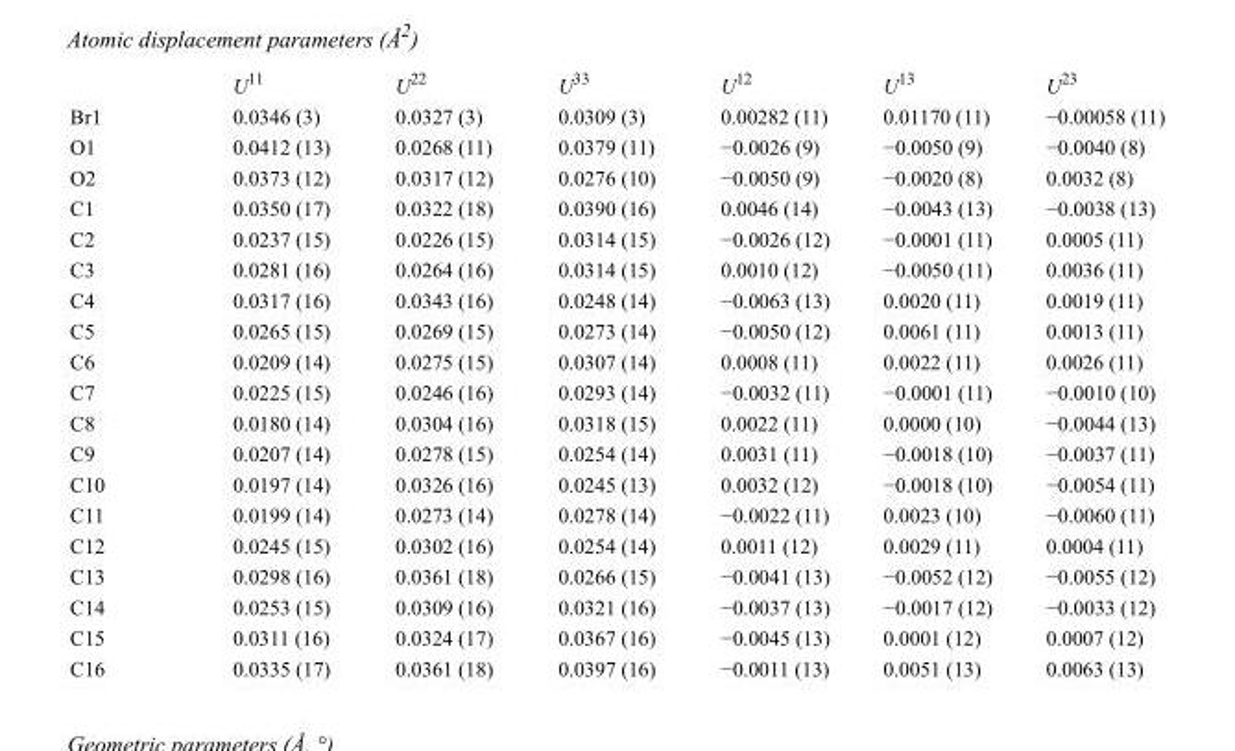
<table><thead><tr><td></td><td>U<sup>11</sup></td><td>U<sup>22</sup></td><td>U<sup>33</sup></td><td>U<sup>12</sup></td><td>U<sup>13</sup></td><td>U<sup>23</sup></td></tr></thead><tbody><tr><td>Br1</td><td>0.0346 (3)</td><td>0.0327 (3)</td><td>0.0309 (3)</td><td>0.00282 (11)</td><td>0.01170 (11)</td><td>−0.00058 (11)</td></tr><tr><td>O1</td><td>0.0412 (13)</td><td>0.0268 (11)</td><td>0.0379 (11)</td><td>−0.0026 (9)</td><td>−0.0050 (9)</td><td>−0.0040 (8)</td></tr><tr><td>O2</td><td>0.0373 (12)</td><td>0.0317 (12)</td><td>0.0276 (10)</td><td>−0.0050 (9)</td><td>−0.0020 (8)</td><td>0.0032 (8)</td></tr><tr><td>C1</td><td>0.0350 (17)</td><td>0.0322 (18)</td><td>0.0390 (16)</td><td>0.0046 (14)</td><td>−0.0043 (13)</td><td>−0.0038 (13)</td></tr><tr><td>C2</td><td>0.0237 (15)</td><td>0.0226 (15)</td><td>0.0314 (15)</td><td>−0.0026 (12)</td><td>−0.0001 (11)</td><td>0.0005 (11)</td></tr><tr><td>C3</td><td>0.0281 (16)</td><td>0.0264 (16)</td><td>0.0314 (15)</td><td>0.0010 (12)</td><td>−0.0050 (11)</td><td>0.0036 (11)</td></tr><tr><td>C4</td><td>0.0317 (16)</td><td>0.0343 (16)</td><td>0.0248 (14)</td><td>−0.0063 (13)</td><td>0.0020 (11)</td><td>0.0019 (11)</td></tr><tr><td>C5</td><td>0.0265 (15)</td><td>0.0269 (15)</td><td>0.0273 (14)</td><td>−0.0050 (12)</td><td>0.0061 (11)</td><td>0.0013 (11)</td></tr><tr><td>C6</td><td>0.0209 (14)</td><td>0.0275 (15)</td><td>0.0307 (14)</td><td>0.0008 (11)</td><td>0.0022 (11)</td><td>0.0026 (11)</td></tr><tr><td>C7</td><td>0.0225 (15)</td><td>0.0246 (16)</td><td>0.0293 (14)</td><td>−0.0032 (11)</td><td>−0.0001 (11)</td><td>−0.0010 (10)</td></tr><tr><td>C8</td><td>0.0180 (14)</td><td>0.0304 (16)</td><td>0.0318 (15)</td><td>0.0022 (11)</td><td>0.0000 (10)</td><td>−0.0044 (13)</td></tr><tr><td>C9</td><td>0.0207 (14)</td><td>0.0278 (15)</td><td>0.0254 (14)</td><td>0.0031 (11)</td><td>−0.0018 (10)</td><td>−0.0037 (11)</td></tr><tr><td>C10</td><td>0.0197 (14)</td><td>0.0326 (16)</td><td>0.0245 (13)</td><td>0.0032 (12)</td><td>−0.0018 (10)</td><td>−0.0054 (11)</td></tr><tr><td>C11</td><td>0.0199 (14)</td><td>0.0273 (14)</td><td>0.0278 (14)</td><td>−0.0022 (11)</td><td>0.0023 (10)</td><td>−0.0060 (11)</td></tr><tr><td>C12</td><td>0.0245 (15)</td><td>0.0302 (16)</td><td>0.0254 (14)</td><td>0.0011 (12)</td><td>0.0029 (11)</td><td>0.0004 (11)</td></tr><tr><td>C13</td><td>0.0298 (16)</td><td>0.0361 (18)</td><td>0.0266 (15)</td><td>−0.0041 (13)</td><td>−0.0052 (12)</td><td>−0.0055 (12)</td></tr><tr><td>C14</td><td>0.0253 (15)</td><td>0.0309 (16)</td><td>0.0321 (16)</td><td>−0.0037 (13)</td><td>−0.0017 (12)</td><td>−0.0033 (12)</td></tr><tr><td>C15</td><td>0.0311 (16)</td><td>0.0324 (17)</td><td>0.0367 (16)</td><td>−0.0045 (13)</td><td>0.0001 (12)</td><td>0.0007 (12)</td></tr><tr><td>C16</td><td>0.0335 (17)</td><td>0.0361 (18)</td><td>0.0397 (16)</td><td>−0.0011 (13)</td><td>0.0051 (13)</td><td>0.0063 (13)</td></tr></tbody></table>